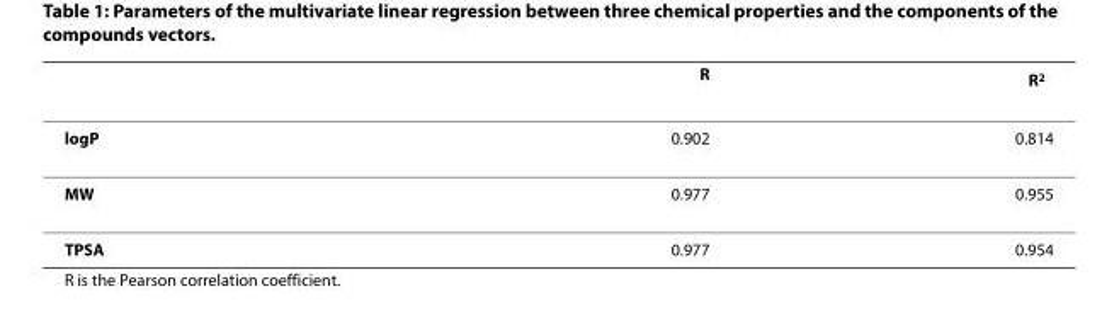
<table><thead><tr><td></td><td>R</td><td>R<sup>2</sup></td></tr></thead><tbody><tr><td>logP</td><td>0.902</td><td>0.814</td></tr><tr><td>MW</td><td>0.977</td><td>0.955</td></tr><tr><td>TPSA</td><td>0.977</td><td>0.954</td></tr></tbody></table>